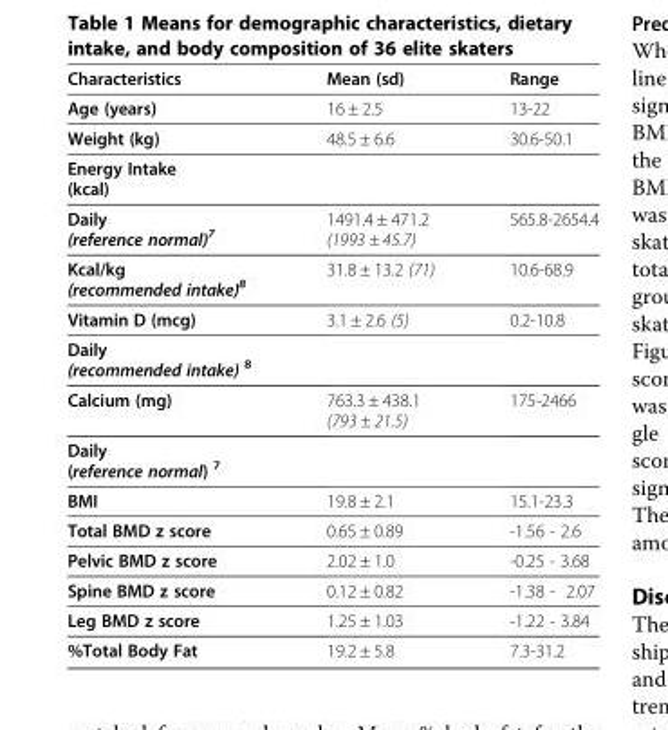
<table><thead><tr><td>Characteristics</td><td>Mean (sd)</td><td>Range</td></tr></thead><tbody><tr><td>Age (years)</td><td>16 ± 2.5</td><td>13-22</td></tr><tr><td>Weight (kg)</td><td>48.5 ± 6.6</td><td>30.6-50.1</td></tr><tr><td colspan="3">Energy Intake (kcal)</td></tr><tr><td>Daily (reference normal)<sup>7</sup></td><td>1491.4 ± 471.2 (1993 ± 45.7)</td><td>565.8-2654.4</td></tr><tr><td>Kcal/kg (recommended intake)<sup>8</sup></td><td>31.8 ± 13.2 (71)</td><td>10.6-68.9</td></tr><tr><td>Vitamin D (mcg)</td><td>3.1 ± 2.6 (5)</td><td>0.2-10.8</td></tr><tr><td colspan="3">Daily (recommended intake) <sup>8</sup></td></tr><tr><td>Calcium (mg)</td><td>763.3 ± 438.1 (793 ± 21.5)</td><td>175-2466</td></tr><tr><td colspan="3">Daily (reference normal) <sup>7</sup></td></tr><tr><td>BMI</td><td>19.8 ± 2.1</td><td>15.1-23.3</td></tr><tr><td>Total BMD z score</td><td>0.65 ± 0.89</td><td>-1.56 - 2.6</td></tr><tr><td>Pelvic BMD z score</td><td>2.02 ± 1.0</td><td>-0.25 - 3.68</td></tr><tr><td>Spine BMD z score</td><td>0.12 ± 0.82</td><td>-1.38 - 2.07</td></tr><tr><td>Leg BMD z score</td><td>1.25 ± 1.03</td><td>-1.22 - 3.84</td></tr><tr><td>%Total Body Fat</td><td>19.2 ± 5.8</td><td>7.3-31.2</td></tr></tbody></table>